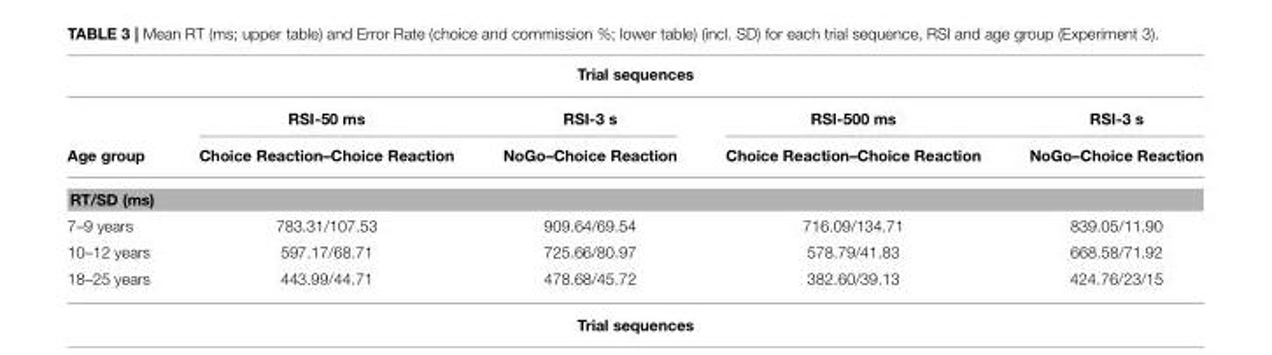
<table><thead><tr><td colspan="5">Trial sequences</td></tr><tr><td rowspan="2">Age group</td><td rowspan="2">RSI-50 ms Choice Reaction–Choice Reaction</td><td rowspan="2">RSI-3 s NoGo–Choice Reaction</td><td rowspan="2">RSI-500 ms Choice Reaction–Choice Reaction</td><td rowspan="2">RSI-3 s NoGo–Choice Reaction</td></tr><tr></tr></thead><tbody><tr><td colspan="5">RT/SD (ms)</td></tr><tr><td>7–9 years</td><td>783.31/107.53</td><td>909.64/69.54</td><td>716.09/134.71</td><td>839.05/11.90</td></tr><tr><td>10–12 years</td><td>597.17/68.71</td><td>725.66/80.97</td><td>578.79/41.83</td><td>668.58/71.92</td></tr><tr><td>18–25 years</td><td>443.99/44.71</td><td>478.68/45.72</td><td>382.60/39.13</td><td>424.76/23/15</td></tr></tbody></table>